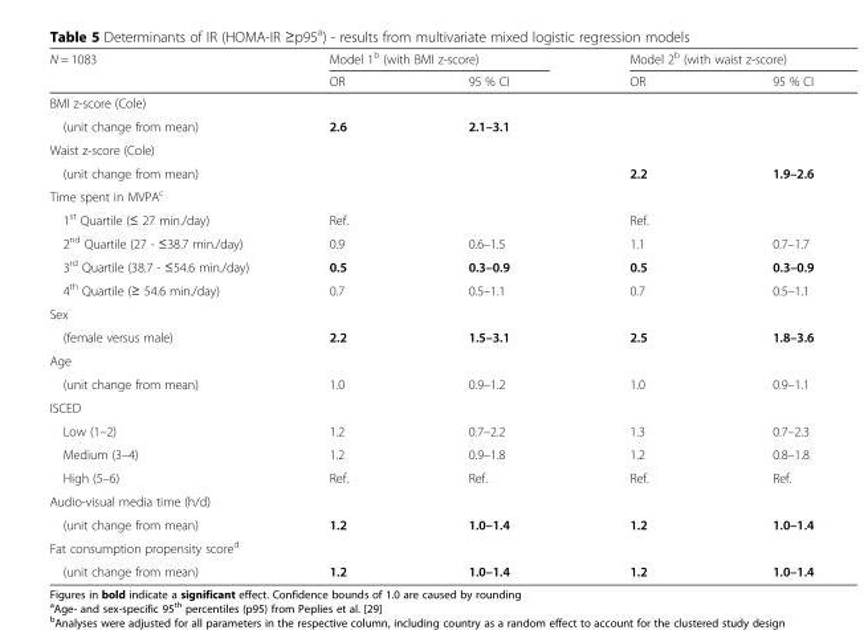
<table><thead><tr><td rowspan="2">N = 1083</td><td colspan="2">Model 1<sup>b</sup> (with BMI z-score)</td><td colspan="2">Model 2<sup>b</sup> (with waist z-score)</td></tr><tr><td>OR</td><td>95 % CI</td><td>OR</td><td>95 % CI</td></tr></thead><tbody><tr><td colspan="5">BMI z-score (Cole)</td></tr><tr><td>(unit change from mean)</td><td>2.6</td><td>2.1–3.1</td><td></td><td></td></tr><tr><td colspan="5">Waist z-score (Cole)</td></tr><tr><td>(unit change from mean)</td><td></td><td></td><td>2.2</td><td>1.9–2.6</td></tr><tr><td colspan="5">Time spent in MVPA<sup>c</sup></td></tr><tr><td>1<sup>st</sup> Quartile (≤ 27 min./day)</td><td>Ref.</td><td></td><td>Ref.</td><td></td></tr><tr><td>2<sup>nd</sup> Quartile (27 - ≤38.7 min./day)</td><td>0.9</td><td>0.6–1.5</td><td>1.1</td><td>0.7–1.7</td></tr><tr><td>3<sup>rd</sup> Quartile (38.7 - ≤54.6 min./day)</td><td>0.5</td><td>0.3–0.9</td><td>0.5</td><td>0.3–0.9</td></tr><tr><td>4<sup>th</sup> Quartile (≥ 54.6 min./day)</td><td>0.7</td><td>0.5–1.1</td><td>0.7</td><td>0.5–1.1</td></tr><tr><td colspan="5">Sex</td></tr><tr><td>(female versus male)</td><td>2.2</td><td>1.5–3.1</td><td>2.5</td><td>1.8–3.6</td></tr><tr><td colspan="5">Age</td></tr><tr><td>(unit change from mean)</td><td>1.0</td><td>0.9–1.2</td><td>1.0</td><td>0.9–1.1</td></tr><tr><td colspan="5">ISCED</td></tr><tr><td>Low (1–2)</td><td>1.2</td><td>0.7–2.2</td><td>1.3</td><td>0.7–2.3</td></tr><tr><td>Medium (3–4)</td><td>1.2</td><td>0.9–1.8</td><td>1.2</td><td>0.8–1.8</td></tr><tr><td>High (5–6)</td><td>Ref.</td><td>Ref.</td><td>Ref.</td><td>Ref.</td></tr><tr><td colspan="5">Audio-visual media time (h/d)</td></tr><tr><td>(unit change from mean)</td><td>1.2</td><td>1.0–1.4</td><td>1.2</td><td>1.0–1.4</td></tr><tr><td colspan="5">Fat consumption propensity score<sup>d</sup></td></tr><tr><td>(unit change from mean)</td><td>1.2</td><td>1.0–1.4</td><td>1.2</td><td>1.0–1.4</td></tr></tbody></table>